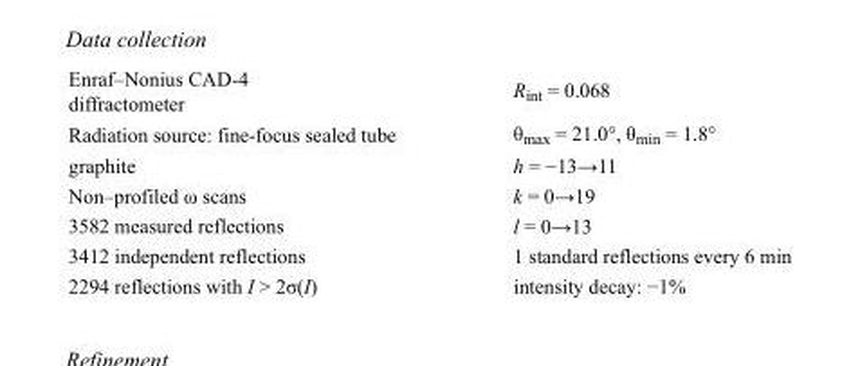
<table><tbody><tr><td>Enraf–Nonius CAD-4 diffractometer</td><td>R<sub>int</sub> = 0.068</td></tr><tr><td>Radiation source: fine-focus sealed tube</td><td>θ<sub>max</sub> = 21.0°, θ<sub>min</sub> = 1.8°</td></tr><tr><td>graphite</td><td>h = −13→11</td></tr><tr><td>Non–profiled ω scans</td><td>k = 0→19</td></tr><tr><td>3582 measured reflections</td><td>l = 0→13</td></tr><tr><td>3412 independent reflections</td><td>1 standard reflections every 6 min</td></tr><tr><td>2294 reflections with I &gt; 2σ(I)</td><td>intensity decay: −1%</td></tr></tbody></table>